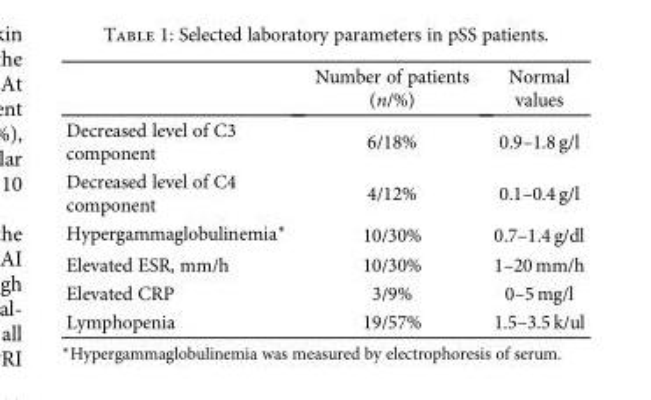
<table><thead><tr><td></td><td>Number of patients (n/%)</td><td>Normal values</td></tr></thead><tbody><tr><td>Decreased level of C3 component</td><td>6/18%</td><td>0.9–1.8 g/l</td></tr><tr><td>Decreased level of C4 component</td><td>4/12%</td><td>0.1–0.4 g/l</td></tr><tr><td>Hypergammaglobulinemia∗</td><td>10/30%</td><td>0.7–1.4 g/dl</td></tr><tr><td>Elevated ESR, mm/h</td><td>10/30%</td><td>1–20 mm/h</td></tr><tr><td>Elevated CRP</td><td>3/9%</td><td>0–5 mg/l</td></tr><tr><td>Lymphopenia</td><td>19/57%</td><td>1.5–3.5 k/ul</td></tr></tbody></table>